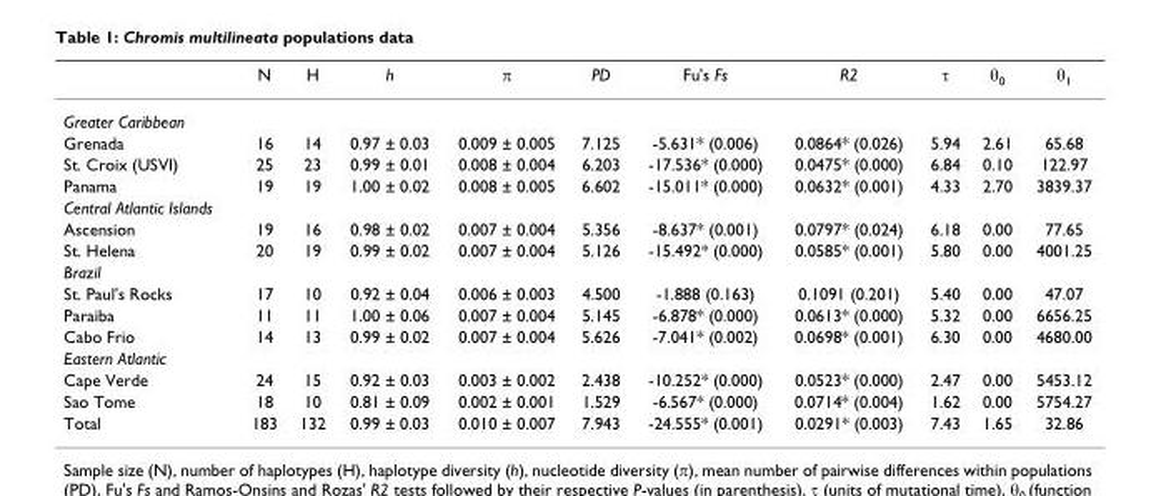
<table><thead><tr><td></td><td>N</td><td>H</td><td>h</td><td>π</td><td>PD</td><td>Fu&#x27;s Fs</td><td>R2</td><td>τ</td><td>θ<sub>0</sub></td><td>θ<sub>1</sub></td></tr></thead><tbody><tr><td colspan="11">Greater Caribbean</td></tr><tr><td>Grenada</td><td>16</td><td>14</td><td>0.97 ± 0.03</td><td>0.009 ± 0.005</td><td>7.125</td><td>-5.631* (0.006)</td><td>0.0864* (0.026)</td><td>5.94</td><td>2.61</td><td>65.68</td></tr><tr><td>St. Croix (USVI)</td><td>25</td><td>23</td><td>0.99 ± 0.01</td><td>0.008 ± 0.004</td><td>6.203</td><td>-17.536* (0.000)</td><td>0.0475* (0.000)</td><td>6.84</td><td>0.10</td><td>122.97</td></tr><tr><td>Panama</td><td>19</td><td>19</td><td>1.00 ± 0.02</td><td>0.008 ± 0.005</td><td>6.602</td><td>-15.011* (0.000)</td><td>0.0632* (0.001)</td><td>4.33</td><td>2.70</td><td>3839.37</td></tr><tr><td colspan="11">Central Atlantic Islands</td></tr><tr><td>Ascension</td><td>19</td><td>16</td><td>0.98 ± 0.02</td><td>0.007 ± 0.004</td><td>5.356</td><td>-8.637* (0.001)</td><td>0.0797* (0.024)</td><td>6.18</td><td>0.00</td><td>77.65</td></tr><tr><td>St. Helena</td><td>20</td><td>19</td><td>0.99 ± 0.02</td><td>0.007 ± 0.004</td><td>5.126</td><td>-15.492* (0.000)</td><td>0.0585* (0.001)</td><td>5.80</td><td>0.00</td><td>4001.25</td></tr><tr><td colspan="11">Brazil</td></tr><tr><td>St. Paul&#x27;s Rocks</td><td>17</td><td>10</td><td>0.92 ± 0.04</td><td>0.006 ± 0.003</td><td>4.500</td><td>-1.888 (0.163)</td><td>0.1091 (0.201)</td><td>5.40</td><td>0.00</td><td>47.07</td></tr><tr><td>Paraiba</td><td>11</td><td>11</td><td>1.00 ± 0.06</td><td>0.007 ± 0.004</td><td>5.145</td><td>-6.878* (0.000)</td><td>0.0613* (0.000)</td><td>5.32</td><td>0.00</td><td>6656.25</td></tr><tr><td>Cabo Frio</td><td>14</td><td>13</td><td>0.99 ± 0.02</td><td>0.007 ± 0.004</td><td>5.626</td><td>-7.041* (0.002)</td><td>0.0698* (0.001)</td><td>6.30</td><td>0.00</td><td>4680.00</td></tr><tr><td colspan="11">Eastern Atlantic</td></tr><tr><td>Cape Verde</td><td>24</td><td>15</td><td>0.92 ± 0.03</td><td>0.003 ± 0.002</td><td>2.438</td><td>-10.252* (0.000)</td><td>0.0523* (0.000)</td><td>2.47</td><td>0.00</td><td>5453.12</td></tr><tr><td>Sao Tome</td><td>18</td><td>10</td><td>0.81 ± 0.09</td><td>0.002 ± 0.001</td><td>1.529</td><td>-6.567* (0.000)</td><td>0.0714* (0.004)</td><td>1.62</td><td>0.00</td><td>5754.27</td></tr><tr><td>Total</td><td>183</td><td>132</td><td>0.99 ± 0.03</td><td>0.010 ± 0.007</td><td>7.943</td><td>-24.555* (0.001)</td><td>0.0291* (0.003)</td><td>7.43</td><td>1.65</td><td>32.86</td></tr></tbody></table>